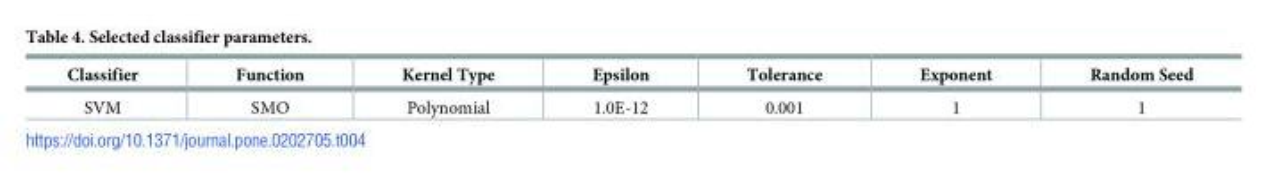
<table><thead><tr><td>Classifier</td><td>Function</td><td>Kernel Type</td><td>Epsilon</td><td>Tolerance</td><td>Exponent</td><td>Random Seed</td></tr></thead><tbody><tr><td>SVM</td><td>SMO</td><td>Polynomial</td><td>1.0E-12</td><td>0.001</td><td>1</td><td>1</td></tr></tbody></table>